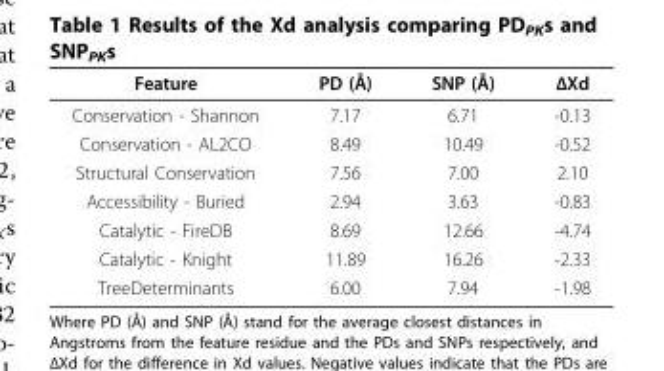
<table><thead><tr><td>Feature</td><td>PD (Å)</td><td>SNP (Å)</td><td>ΔXd</td></tr></thead><tbody><tr><td>Conservation - Shannon</td><td>7.17</td><td>6.71</td><td>-0.13</td></tr><tr><td>Conservation - AL2CO</td><td>8.49</td><td>10.49</td><td>-0.52</td></tr><tr><td>Structural Conservation</td><td>7.56</td><td>7.00</td><td>2.10</td></tr><tr><td>Accessibility - Buried</td><td>2.94</td><td>3.63</td><td>-0.83</td></tr><tr><td>Catalytic - FireDB</td><td>8.69</td><td>12.66</td><td>-4.74</td></tr><tr><td>Catalytic - Knight</td><td>11.89</td><td>16.26</td><td>-2.33</td></tr><tr><td>TreeDeterminants</td><td>6.00</td><td>7.94</td><td>-1.98</td></tr></tbody></table>